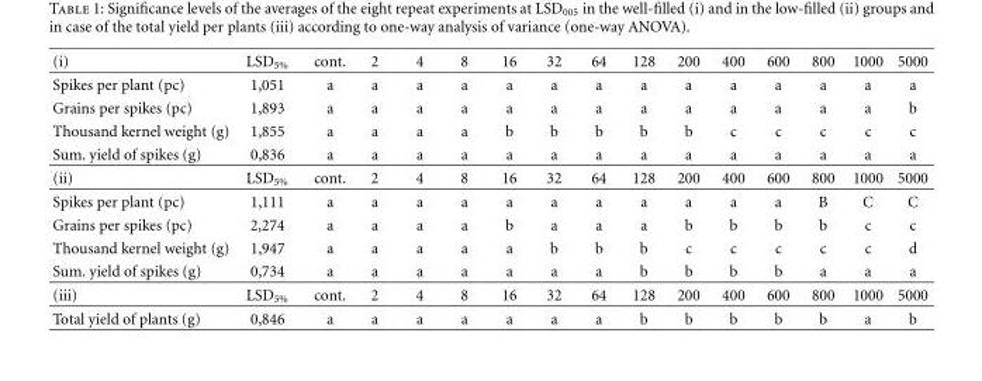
<table><thead><tr><td>(i)</td><td>LSD<sub>5%</sub></td><td>cont.</td><td>2</td><td>4</td><td>8</td><td>16</td><td>32</td><td>64</td><td>128</td><td>200</td><td>400</td><td>600</td><td>800</td><td>1000</td><td>5000</td></tr></thead><tbody><tr><td>Spikes per plant (pc)</td><td>1,051</td><td>a</td><td>a</td><td>a</td><td>a</td><td>a</td><td>a</td><td>a</td><td>a</td><td>a</td><td>a</td><td>a</td><td>a</td><td>a</td><td>a</td></tr><tr><td>Grains per spikes (pc)</td><td>1,893</td><td>a</td><td>a</td><td>a</td><td>a</td><td>a</td><td>a</td><td>a</td><td>a</td><td>a</td><td>a</td><td>a</td><td>a</td><td>a</td><td>b</td></tr><tr><td>Thousand kernel weight (g)</td><td>1,855</td><td>a</td><td>a</td><td>a</td><td>a</td><td>b</td><td>b</td><td>b</td><td>b</td><td>b</td><td>c</td><td>c</td><td>c</td><td>c</td><td>c</td></tr><tr><td>Sum. yield of spikes (g)</td><td>0,836</td><td>a</td><td>a</td><td>a</td><td>a</td><td>a</td><td>a</td><td>a</td><td>a</td><td>a</td><td>a</td><td>a</td><td>a</td><td>a</td><td>a</td></tr><tr><td>(ii)</td><td>LSD<sub>5%</sub></td><td>cont.</td><td>2</td><td>4</td><td>8</td><td>16</td><td>32</td><td>64</td><td>128</td><td>200</td><td>400</td><td>600</td><td>800</td><td>1000</td><td>5000</td></tr><tr><td>Spikes per plant (pc)</td><td>1,111</td><td>a</td><td>a</td><td>a</td><td>a</td><td>a</td><td>a</td><td>a</td><td>a</td><td>a</td><td>a</td><td>a</td><td>B</td><td>C</td><td>C</td></tr><tr><td>Grains per spikes (pc)</td><td>2,274</td><td>a</td><td>a</td><td>a</td><td>a</td><td>b</td><td>a</td><td>a</td><td>a</td><td>b</td><td>b</td><td>b</td><td>b</td><td>c</td><td>c</td></tr><tr><td>Thousand kernel weight (g)</td><td>1,947</td><td>a</td><td>a</td><td>a</td><td>a</td><td>a</td><td>b</td><td>b</td><td>b</td><td>c</td><td>c</td><td>c</td><td>c</td><td>c</td><td>d</td></tr><tr><td>Sum. yield of spikes (g)</td><td>0,734</td><td>a</td><td>a</td><td>a</td><td>a</td><td>a</td><td>a</td><td>a</td><td>b</td><td>b</td><td>b</td><td>b</td><td>a</td><td>a</td><td>a</td></tr><tr><td>(iii)</td><td>LSD<sub>5%</sub></td><td>cont.</td><td>2</td><td>4</td><td>8</td><td>16</td><td>32</td><td>64</td><td>128</td><td>200</td><td>400</td><td>600</td><td>800</td><td>1000</td><td>5000</td></tr><tr><td>Total yield of plants (g)</td><td>0,846</td><td>a</td><td>a</td><td>a</td><td>a</td><td>a</td><td>a</td><td>a</td><td>b</td><td>b</td><td>b</td><td>b</td><td>b</td><td>a</td><td>b</td></tr></tbody></table>